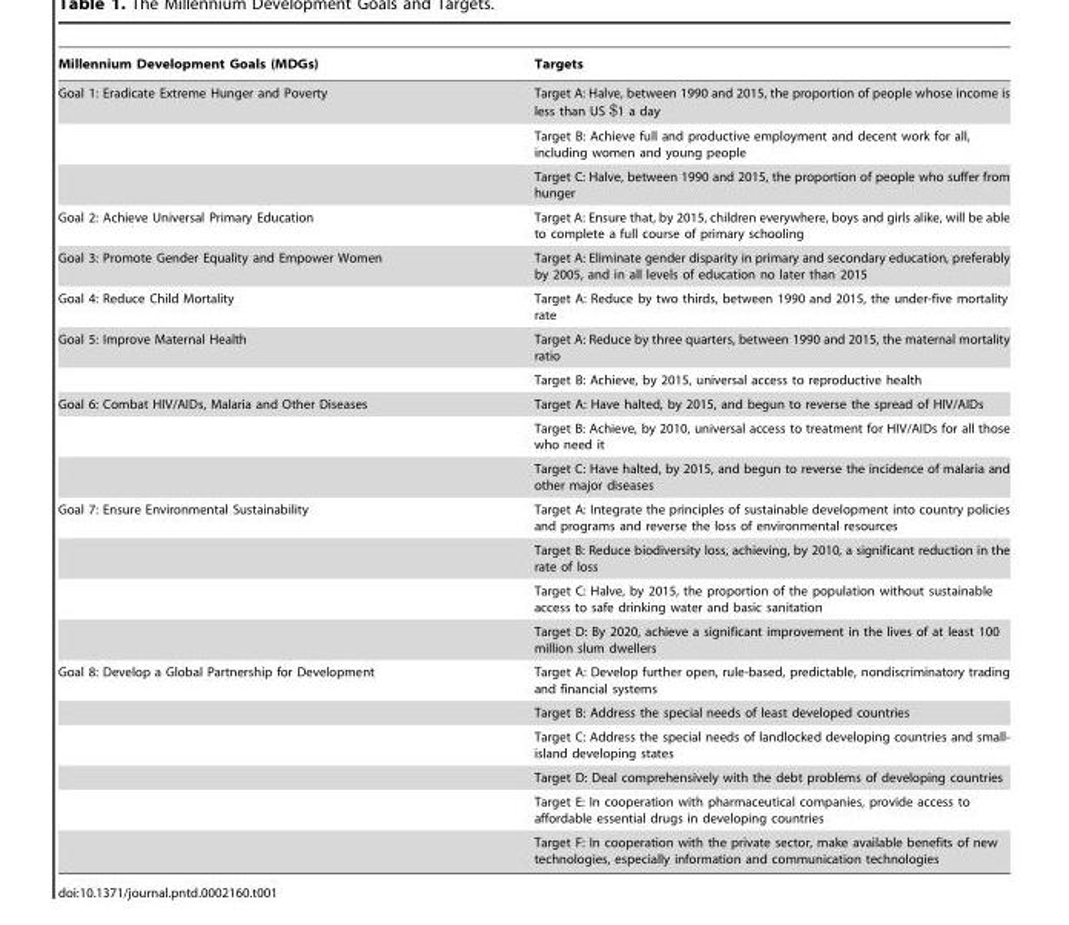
<table><thead><tr><td>Millennium Development Goals (MDGs)</td><td>Targets</td></tr></thead><tbody><tr><td rowspan="3">Goal 1: Eradicate Extreme Hunger and Poverty</td><td>Target A: Halve, between 1990 and 2015, the proportion of people whose income is less than US $1 a day</td></tr><tr><td>Target B: Achieve full and productive employment and decent work for all, including women and young people</td></tr><tr><td>Target C: Halve, between 1990 and 2015, the proportion of people who suffer from hunger</td></tr><tr><td>Goal 2: Achieve Universal Primary Education</td><td>Target A: Ensure that, by 2015, children everywhere, boys and girls alike, will be able to complete a full course of primary schooling</td></tr><tr><td>Goal 3: Promote Gender Equality and Empower Women</td><td>Target A: Eliminate gender disparity in primary and secondary education, preferably by 2005, and in all levels of education no later than 2015</td></tr><tr><td>Goal 4: Reduce Child Mortality</td><td>Target A: Reduce by two thirds, between 1990 and 2015, the under-five mortality rate</td></tr><tr><td rowspan="2">Goal 5: Improve Maternal Health</td><td>Target A: Reduce by three quarters, between 1990 and 2015, the maternal mortality ratio</td></tr><tr><td>Target B: Achieve, by 2015, universal access to reproductive health</td></tr><tr><td rowspan="3">Goal 6: Combat HIV/AIDs, Malaria and Other Diseases</td><td>Target A: Have halted, by 2015, and begun to reverse the spread of HIV/AIDs</td></tr><tr><td>Target B: Achieve, by 2010, universal access to treatment for HIV/AIDs for all those who need it</td></tr><tr><td>Target C: Have halted, by 2015, and begun to reverse the incidence of malaria and other major diseases</td></tr><tr><td rowspan="4">Goal 7: Ensure Environmental Sustainability</td><td>Target A: Integrate the principles of sustainable development into country policies and programs and reverse the loss of environmental resources</td></tr><tr><td>Target B: Reduce biodiversity loss, achieving, by 2010, a significant reduction in the rate of loss</td></tr><tr><td>Target C: Halve, by 2015, the proportion of the population without sustainable access to safe drinking water and basic sanitation</td></tr><tr><td>Target D: By 2020, achieve a significant improvement in the lives of at least 100 million slum dwellers</td></tr><tr><td rowspan="6">Goal 8: Develop a Global Partnership for Development</td><td>Target A: Develop further open, rule-based, predictable, nondiscriminatory trading and financial systems</td></tr><tr><td>Target B: Address the special needs of least developed countries</td></tr><tr><td>Target C: Address the special needs of landlocked developing countries and small- island developing states</td></tr><tr><td>Target D: Deal comprehensively with the debt problems of developing countries</td></tr><tr><td>Target E: In cooperation with pharmaceutical companies, provide access to affordable essential drugs in developing countries</td></tr><tr><td>Target F: In cooperation with the private sector, make available benefits of new technologies, especially information and communication technologies</td></tr></tbody></table>